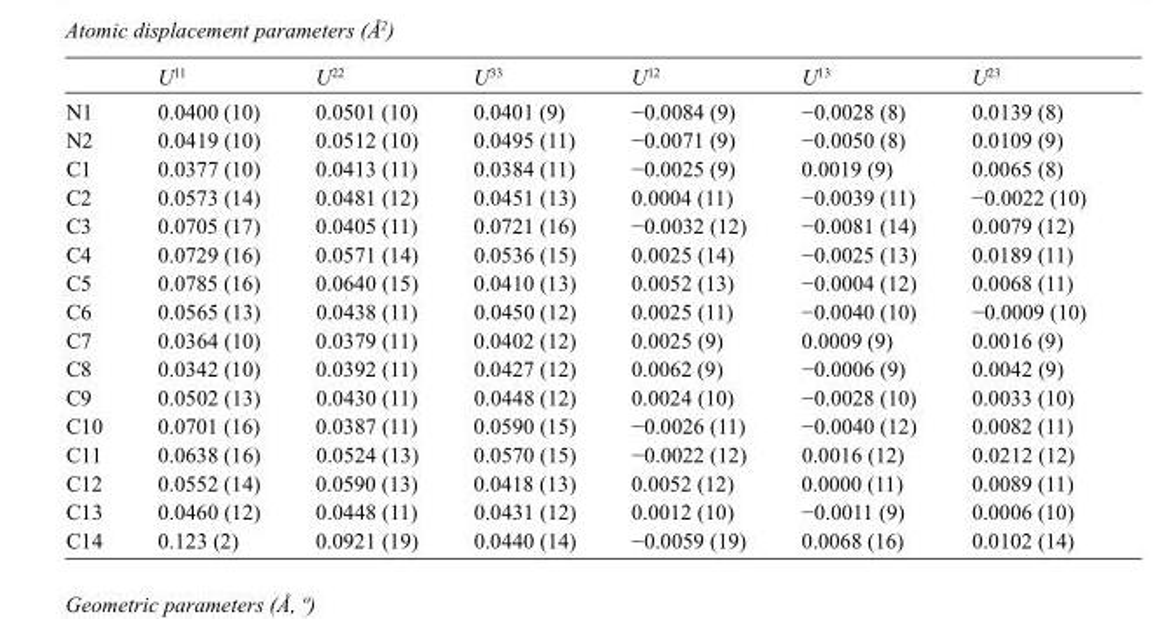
<table><thead><tr><td></td><td>U<sup>11</sup></td><td>U<sup>22</sup></td><td>U<sup>33</sup></td><td>U<sup>12</sup></td><td>U<sup>13</sup></td><td>U<sup>23</sup></td></tr></thead><tbody><tr><td>N1</td><td>0.0400 (10)</td><td>0.0501 (10)</td><td>0.0401 (9)</td><td>−0.0084 (9)</td><td>−0.0028 (8)</td><td>0.0139 (8)</td></tr><tr><td>N2</td><td>0.0419 (10)</td><td>0.0512 (10)</td><td>0.0495 (11)</td><td>−0.0071 (9)</td><td>−0.0050 (8)</td><td>0.0109 (9)</td></tr><tr><td>C1</td><td>0.0377 (10)</td><td>0.0413 (11)</td><td>0.0384 (11)</td><td>−0.0025 (9)</td><td>0.0019 (9)</td><td>0.0065 (8)</td></tr><tr><td>C2</td><td>0.0573 (14)</td><td>0.0481 (12)</td><td>0.0451 (13)</td><td>0.0004 (11)</td><td>−0.0039 (11)</td><td>−0.0022 (10)</td></tr><tr><td>C3</td><td>0.0705 (17)</td><td>0.0405 (11)</td><td>0.0721 (16)</td><td>−0.0032 (12)</td><td>−0.0081 (14)</td><td>0.0079 (12)</td></tr><tr><td>C4</td><td>0.0729 (16)</td><td>0.0571 (14)</td><td>0.0536 (15)</td><td>0.0025 (14)</td><td>−0.0025 (13)</td><td>0.0189 (11)</td></tr><tr><td>C5</td><td>0.0785 (16)</td><td>0.0640 (15)</td><td>0.0410 (13)</td><td>0.0052 (13)</td><td>−0.0004 (12)</td><td>0.0068 (11)</td></tr><tr><td>C6</td><td>0.0565 (13)</td><td>0.0438 (11)</td><td>0.0450 (12)</td><td>0.0025 (11)</td><td>−0.0040 (10)</td><td>−0.0009 (10)</td></tr><tr><td>C7</td><td>0.0364 (10)</td><td>0.0379 (11)</td><td>0.0402 (12)</td><td>0.0025 (9)</td><td>0.0009 (9)</td><td>0.0016 (9)</td></tr><tr><td>C8</td><td>0.0342 (10)</td><td>0.0392 (11)</td><td>0.0427 (12)</td><td>0.0062 (9)</td><td>−0.0006 (9)</td><td>0.0042 (9)</td></tr><tr><td>C9</td><td>0.0502 (13)</td><td>0.0430 (11)</td><td>0.0448 (12)</td><td>0.0024 (10)</td><td>−0.0028 (10)</td><td>0.0033 (10)</td></tr><tr><td>C10</td><td>0.0701 (16)</td><td>0.0387 (11)</td><td>0.0590 (15)</td><td>−0.0026 (11)</td><td>−0.0040 (12)</td><td>0.0082 (11)</td></tr><tr><td>C11</td><td>0.0638 (16)</td><td>0.0524 (13)</td><td>0.0570 (15)</td><td>−0.0022 (12)</td><td>0.0016 (12)</td><td>0.0212 (12)</td></tr><tr><td>C12</td><td>0.0552 (14)</td><td>0.0590 (13)</td><td>0.0418 (13)</td><td>0.0052 (12)</td><td>0.0000 (11)</td><td>0.0089 (11)</td></tr><tr><td>C13</td><td>0.0460 (12)</td><td>0.0448 (11)</td><td>0.0431 (12)</td><td>0.0012 (10)</td><td>−0.0011 (9)</td><td>0.0006 (10)</td></tr><tr><td>C14</td><td>0.123 (2)</td><td>0.0921 (19)</td><td>0.0440 (14)</td><td>−0.0059 (19)</td><td>0.0068 (16)</td><td>0.0102 (14)</td></tr></tbody></table>